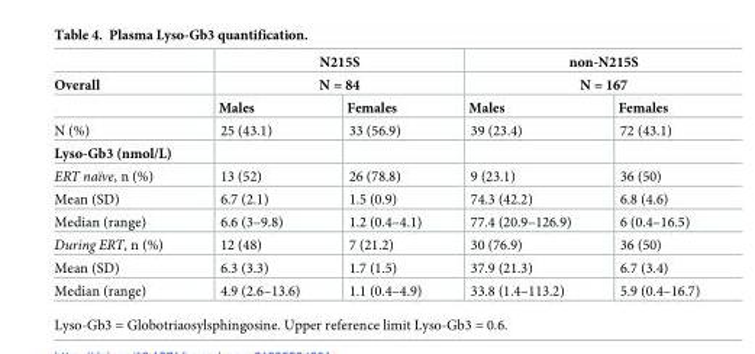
<table><thead><tr><td rowspan="3">Overall</td><td rowspan="2" colspan="2">N215S N = 84</td><td rowspan="2" colspan="2">non-N215S N = 167</td></tr><tr></tr><tr><td>Males</td><td>Females</td><td>Males</td><td>Females</td></tr></thead><tbody><tr><td>N (%)</td><td>25 (43.1)</td><td>33 (56.9)</td><td>39 (23.4)</td><td>72 (43.1)</td></tr><tr><td colspan="5">Lyso-Gb3 (nmol/L)</td></tr><tr><td>ERT naïve, n (%)</td><td>13 (52)</td><td>26 (78.8)</td><td>9 (23.1)</td><td>36 (50)</td></tr><tr><td>Mean (SD)</td><td>6.7 (2.1)</td><td>1.5 (0.9)</td><td>74.3 (42.2)</td><td>6.8 (4.6)</td></tr><tr><td>Median (range)</td><td>6.6 (3–9.8)</td><td>1.2 (0.4–4.1)</td><td>77.4 (20.9–126.9)</td><td>6 (0.4–16.5)</td></tr><tr><td>During ERT, n (%)</td><td>12 (48)</td><td>7 (21.2)</td><td>30 (76.9)</td><td>36 (50)</td></tr><tr><td>Mean (SD)</td><td>6.3 (3.3)</td><td>1.7 (1.5)</td><td>37.9 (21.3)</td><td>6.7 (3.4)</td></tr><tr><td>Median (range)</td><td>4.9 (2.6–13.6)</td><td>1.1 (0.4–4.9)</td><td>33.8 (1.4–113.2)</td><td>5.9 (0.4–16.7)</td></tr></tbody></table>